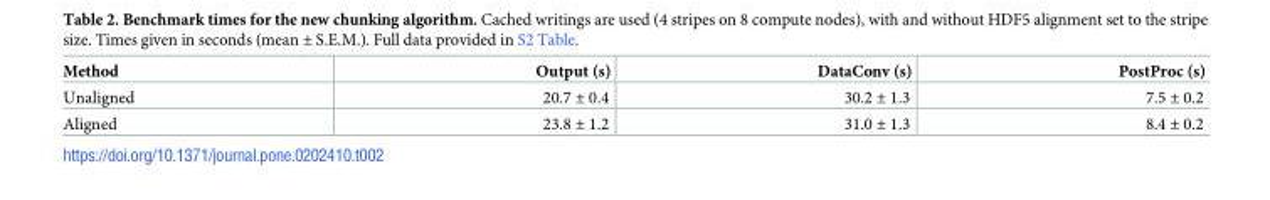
<table><thead><tr><td>Method</td><td>Output (s)</td><td>DataConv (s)</td><td>PostProc (s)</td></tr></thead><tbody><tr><td>Unaligned</td><td>20.7 ± 0.4</td><td>30.2 ± 1.3</td><td>7.5 ± 0.2</td></tr><tr><td>Aligned</td><td>23.8 ± 1.2</td><td>31.0 ± 1.3</td><td>8.4 ± 0.2</td></tr></tbody></table>